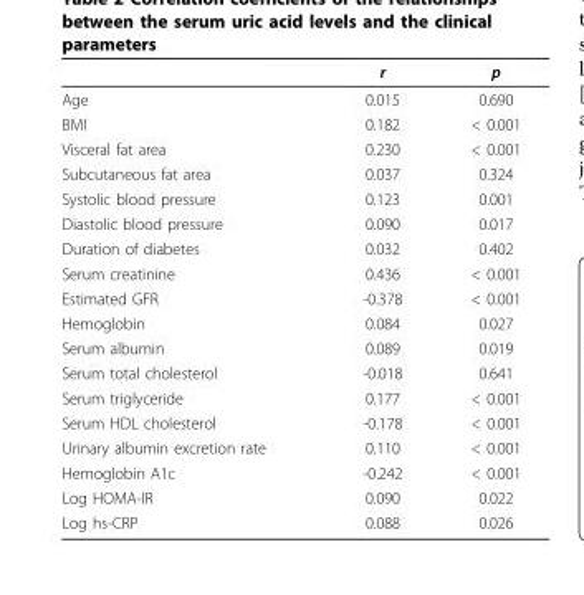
<table><thead><tr><td></td><td>r</td><td>p</td></tr></thead><tbody><tr><td>Age</td><td>0.015</td><td>0.690</td></tr><tr><td>BMI</td><td>0.182</td><td>&lt; 0.001</td></tr><tr><td>Visceral fat area</td><td>0.230</td><td>&lt; 0.001</td></tr><tr><td>Subcutaneous fat area</td><td>0.037</td><td>0.324</td></tr><tr><td>Systolic blood pressure</td><td>0.123</td><td>0.001</td></tr><tr><td>Diastolic blood pressure</td><td>0.090</td><td>0.017</td></tr><tr><td>Duration of diabetes</td><td>0.032</td><td>0.402</td></tr><tr><td>Serum creatinine</td><td>0.436</td><td>&lt; 0.001</td></tr><tr><td>Estimated GFR</td><td>-0.378</td><td>&lt; 0.001</td></tr><tr><td>Hemoglobin</td><td>0.084</td><td>0.027</td></tr><tr><td>Serum albumin</td><td>0.089</td><td>0.019</td></tr><tr><td>Serum total cholesterol</td><td>-0.018</td><td>0.641</td></tr><tr><td>Serum triglyceride</td><td>0.177</td><td>&lt; 0.001</td></tr><tr><td>Serum HDL cholesterol</td><td>-0.178</td><td>&lt; 0.001</td></tr><tr><td>Urinary albumin excretion rate</td><td>0.110</td><td>&lt; 0.001</td></tr><tr><td>Hemoglobin A1c</td><td>-0.242</td><td>&lt; 0.001</td></tr><tr><td>Log HOMA-IR</td><td>0.090</td><td>0.022</td></tr><tr><td>Log hs-CRP</td><td>0.088</td><td>0.026</td></tr></tbody></table>